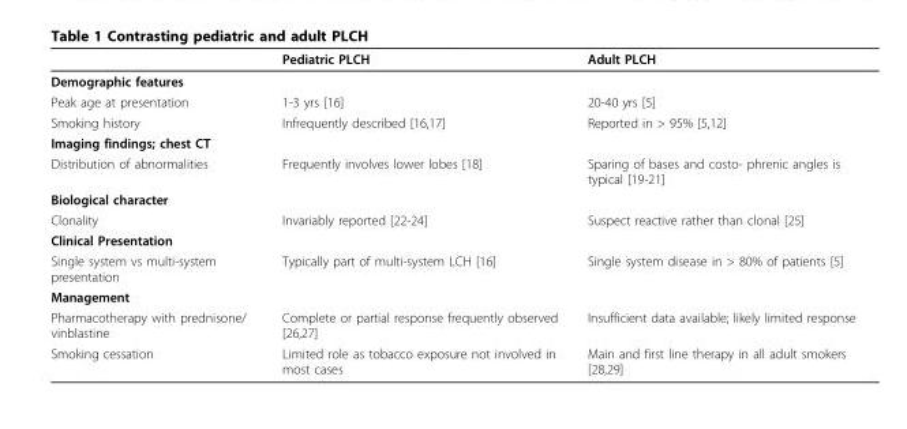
<table><thead><tr><td></td><td>Pediatric PLCH</td><td>Adult PLCH</td></tr></thead><tbody><tr><td colspan="3">Demographic features</td></tr><tr><td>Peak age at presentation</td><td>1-3 yrs [16]</td><td>20-40 yrs [5]</td></tr><tr><td>Smoking history</td><td>Infrequently described [16,17]</td><td>Reported in &gt; 95% [5,12]</td></tr><tr><td colspan="3">Imaging findings; chest CT</td></tr><tr><td>Distribution of abnormalities</td><td>Frequently involves lower lobes [18]</td><td>Sparing of bases and costo- phrenic angles is typical [19-21]</td></tr><tr><td colspan="3">Biological character</td></tr><tr><td>Clonality</td><td>Invariably reported [22-24]</td><td>Suspect reactive rather than clonal [25]</td></tr><tr><td colspan="3">Clinical Presentation</td></tr><tr><td>Single system vs multi-system presentation</td><td>Typically part of multi-system LCH [16]</td><td>Single system disease in &gt; 80% of patients [5]</td></tr><tr><td colspan="3">Management</td></tr><tr><td>Pharmacotherapy with prednisone/ vinblastine</td><td>Complete or partial response frequently observed [26,27]</td><td>Insufficient data available; likely limited response</td></tr><tr><td>Smoking cessation</td><td>Limited role as tobacco exposure not involved in most cases</td><td>Main and first line therapy in all adult smokers [28,29]</td></tr></tbody></table>